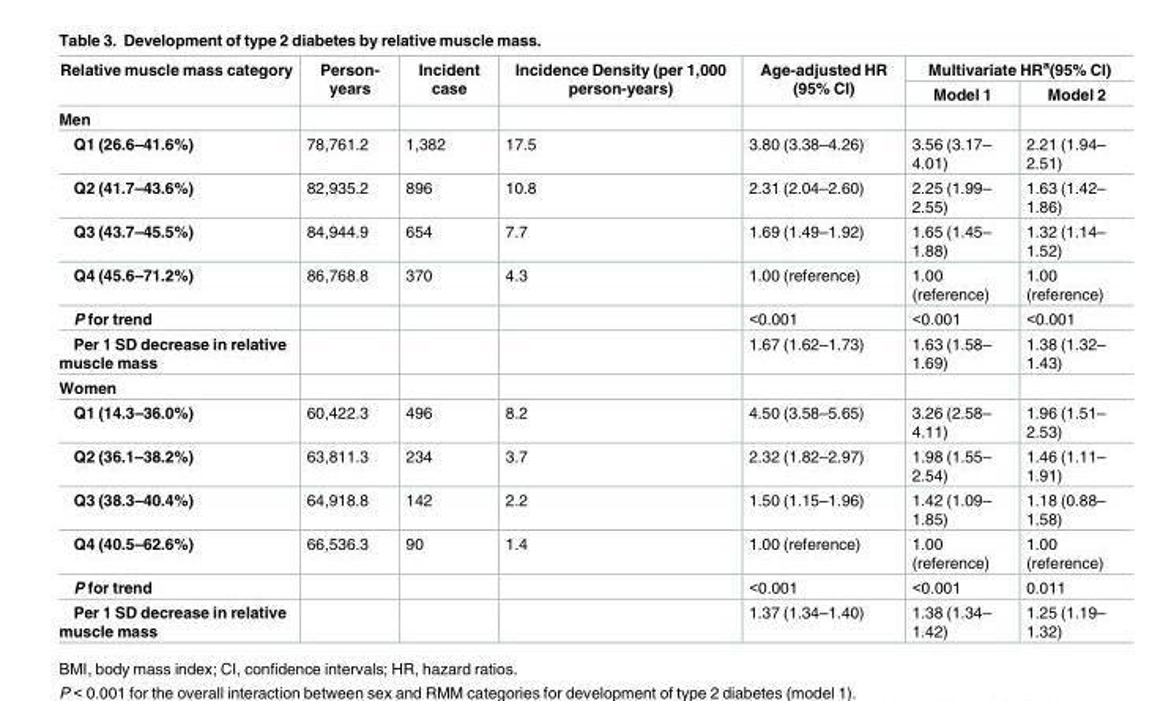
<table><thead><tr><td rowspan="2">Relative muscle mass category</td><td rowspan="2">Person- years</td><td rowspan="2">Incident case</td><td rowspan="2">Incidence Density (per 1,000 person-years)</td><td rowspan="2">Age-adjusted HR (95% CI)</td><td colspan="2">Multivariate HR<sup>a</sup>(95% CI)</td></tr><tr><td>Model 1</td><td>Model 2</td></tr></thead><tbody><tr><td colspan="7">Men</td></tr><tr><td>Q1 (26.6–41.6%)</td><td>78,761.2</td><td>1,382</td><td>17.5</td><td>3.80 (3.38–4.26)</td><td>3.56 (3.17– 4.01)</td><td>2.21 (1.94– 2.51)</td></tr><tr><td>Q2 (41.7–43.6%)</td><td>82,935.2</td><td>896</td><td>10.8</td><td>2.31 (2.04–2.60)</td><td>2.25 (1.99– 2.55)</td><td>1.63 (1.42– 1.86)</td></tr><tr><td>Q3 (43.7–45.5%)</td><td>84,944.9</td><td>654</td><td>7.7</td><td>1.69 (1.49–1.92)</td><td>1.65 (1.45– 1.88)</td><td>1.32 (1.14– 1.52)</td></tr><tr><td>Q4 (45.6–71.2%)</td><td>86,768.8</td><td>370</td><td>4.3</td><td>1.00 (reference)</td><td>1.00 (reference)</td><td>1.00 (reference)</td></tr><tr><td>P for trend</td><td></td><td></td><td></td><td>&lt;0.001</td><td>&lt;0.001</td><td>&lt;0.001</td></tr><tr><td>Per 1 SD decrease in relative muscle mass</td><td></td><td></td><td></td><td>1.67 (1.62–1.73)</td><td>1.63 (1.58– 1.69)</td><td>1.38 (1.32– 1.43)</td></tr><tr><td colspan="7">Women</td></tr><tr><td>Q1 (14.3–36.0%)</td><td>60,422.3</td><td>496</td><td>8.2</td><td>4.50 (3.58–5.65)</td><td>3.26 (2.58– 4.11)</td><td>1.96 (1.51– 2.53)</td></tr><tr><td>Q2 (36.1–38.2%)</td><td>63,811.3</td><td>234</td><td>3.7</td><td>2.32 (1.82–2.97)</td><td>1.98 (1.55– 2.54)</td><td>1.46 (1.11– 1.91)</td></tr><tr><td>Q3 (38.3–40.4%)</td><td>64,918.8</td><td>142</td><td>2.2</td><td>1.50 (1.15–1.96)</td><td>1.42 (1.09– 1.85)</td><td>1.18 (0.88– 1.58)</td></tr><tr><td>Q4 (40.5–62.6%)</td><td>66,536.3</td><td>90</td><td>1.4</td><td>1.00 (reference)</td><td>1.00 (reference)</td><td>1.00 (reference)</td></tr><tr><td>P for trend</td><td></td><td></td><td></td><td>&lt;0.001</td><td>&lt;0.001</td><td>0.011</td></tr><tr><td>Per 1 SD decrease in relative muscle mass</td><td></td><td></td><td></td><td>1.37 (1.34–1.40)</td><td>1.38 (1.34– 1.42)</td><td>1.25 (1.19– 1.32)</td></tr></tbody></table>